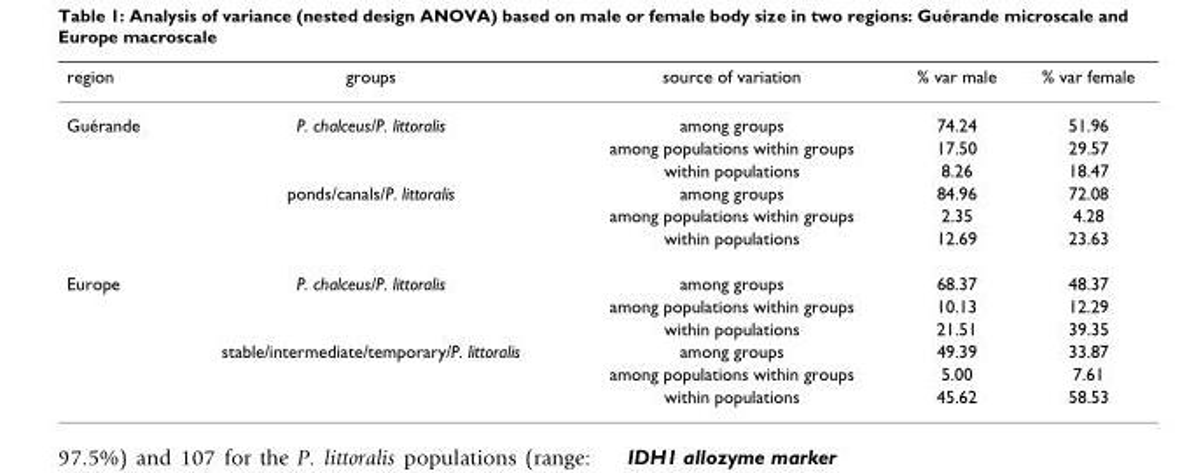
<table><thead><tr><td>region</td><td>groups</td><td>source of variation</td><td>% var male</td><td>% var female</td></tr></thead><tbody><tr><td rowspan="6">Guérande</td><td>P. chalceus/P. littoralis</td><td>among groups</td><td>74.24</td><td>51.96</td></tr><tr><td></td><td>among populations within groups</td><td>17.50</td><td>29.57</td></tr><tr><td></td><td>within populations</td><td>8.26</td><td>18.47</td></tr><tr><td>ponds/canals/P. littoralis</td><td>among groups</td><td>84.96</td><td>72.08</td></tr><tr><td></td><td>among populations within groups</td><td>2.35</td><td>4.28</td></tr><tr><td></td><td>within populations</td><td>12.69</td><td>23.63</td></tr><tr><td rowspan="6">Europe</td><td>P. chalceus/P. littoralis</td><td>among groups</td><td>68.37</td><td>48.37</td></tr><tr><td></td><td>among populations within groups</td><td>10.13</td><td>12.29</td></tr><tr><td></td><td>within populations</td><td>21.51</td><td>39.35</td></tr><tr><td>stable/intermediate/temporary/P. littoralis</td><td>among groups</td><td>49.39</td><td>33.87</td></tr><tr><td></td><td>among populations within groups</td><td>5.00</td><td>7.61</td></tr><tr><td></td><td>within populations</td><td>45.62</td><td>58.53</td></tr></tbody></table>